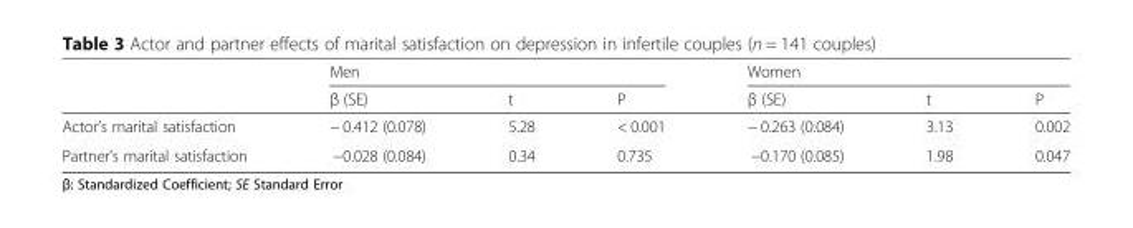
<table><thead><tr><td rowspan="2"></td><td colspan="3">Men</td><td colspan="3">Women</td></tr><tr><td>β (SE)</td><td>t</td><td>P</td><td>β (SE)</td><td>t</td><td>P</td></tr></thead><tbody><tr><td>Actor’s marital satisfaction</td><td>− 0.412 (0.078)</td><td>5.28</td><td>&lt; 0.001</td><td>− 0.263 (0.084)</td><td>3.13</td><td>0.002</td></tr><tr><td>Partner’s marital satisfaction</td><td>−0.028 (0.084)</td><td>0.34</td><td>0.735</td><td>−0.170 (0.085)</td><td>1.98</td><td>0.047</td></tr></tbody></table>